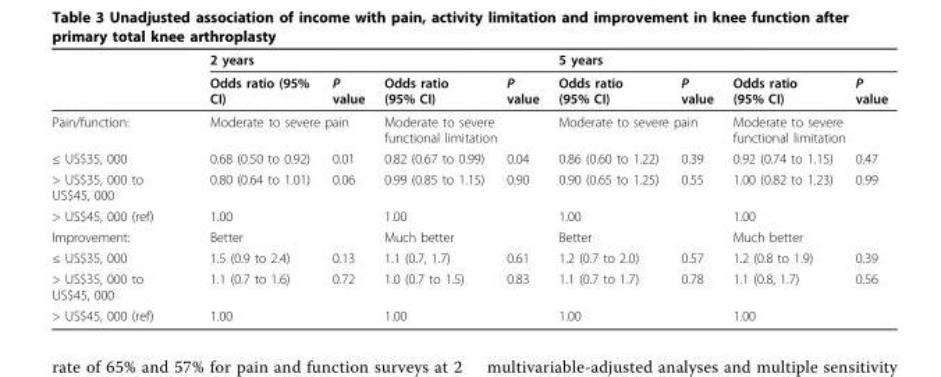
<table><thead><tr><td rowspan="2"></td><td colspan="4">2 years</td><td colspan="4">5 years</td></tr><tr><td>Odds ratio (95% CI)</td><td>P value</td><td>Odds ratio (95% CI)</td><td>P value</td><td>Odds ratio (95% CI)</td><td>P value</td><td>Odds ratio (95% CI)</td><td>P value</td></tr></thead><tbody><tr><td>Pain/function:</td><td colspan="2">Moderate to severe pain</td><td colspan="2">Moderate to severe functional limitation</td><td colspan="2">Moderate to severe pain</td><td colspan="2">Moderate to severe functional limitation</td></tr><tr><td>≤ US$35, 000</td><td>0.68 (0.50 to 0.92)</td><td>0.01</td><td>0.82 (0.67 to 0.99)</td><td>0.04</td><td>0.86 (0.60 to 1.22)</td><td>0.39</td><td>0.92 (0.74 to 1.15)</td><td>0.47</td></tr><tr><td>&gt; US$35, 000 to US$45, 000</td><td>0.80 (0.64 to 1.01)</td><td>0.06</td><td>0.99 (0.85 to 1.15)</td><td>0.90</td><td>0.90 (0.65 to 1.25)</td><td>0.55</td><td>1.00 (0.82 to 1.23)</td><td>0.99</td></tr><tr><td>&gt; US$45, 000 (ref)</td><td>1.00</td><td></td><td>1.00</td><td></td><td>1.00</td><td></td><td>1.00</td><td></td></tr><tr><td>Improvement:</td><td colspan="2">Better</td><td colspan="2">Much better</td><td colspan="2">Better</td><td colspan="2">Much better</td></tr><tr><td>≤ US$35, 000</td><td>1.5 (0.9 to 2.4)</td><td>0.13</td><td>1.1 (0.7, 1.7)</td><td>0.61</td><td>1.2 (0.7 to 2.0)</td><td>0.57</td><td>1.2 (0.8 to 1.9)</td><td>0.39</td></tr><tr><td>&gt; US$35, 000 to US$45, 000</td><td>1.1 (0.7 to 1.6)</td><td>0.72</td><td>1.0 (0.7 to 1.5)</td><td>0.83</td><td>1.1 (0.7 to 1.7)</td><td>0.78</td><td>1.1 (0.8, 1.7)</td><td>0.56</td></tr><tr><td>&gt; US$45, 000 (ref)</td><td>1.00</td><td></td><td>1.00</td><td></td><td>1.00</td><td></td><td>1.00</td><td></td></tr></tbody></table>